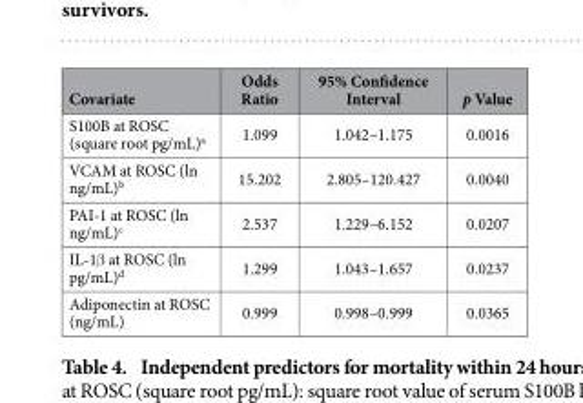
<table><thead><tr><td>Covariate</td><td>Odds Ratio</td><td>95% Confidence Interval</td><td>p Value</td></tr></thead><tbody><tr><td>S100B at ROSC (square root pg/mL)<sup>a</sup></td><td>1.099</td><td>1.042–1.175</td><td>0.0016</td></tr><tr><td>VCAM at ROSC (ln ng/mL)<sup>b</sup></td><td>15.202</td><td>2.805–120.427</td><td>0.0040</td></tr><tr><td>PAI-1 at ROSC (ln ng/mL)<sup>c</sup></td><td>2.537</td><td>1.229–6.152</td><td>0.0207</td></tr><tr><td>IL-1β at ROSC (ln pg/mL)<sup>d</sup></td><td>1.299</td><td>1.043–1.657</td><td>0.0237</td></tr><tr><td>Adiponectin at ROSC (ng/mL)</td><td>0.999</td><td>0.998–0.999</td><td>0.0365</td></tr></tbody></table>